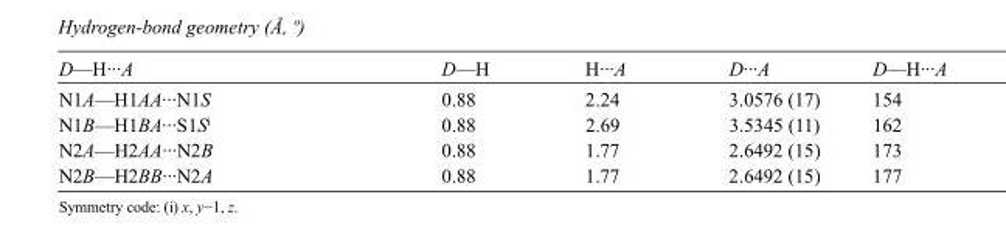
<table><tbody><tr><td>D—H···A</td><td>D—H</td><td>H···A</td><td>D···A</td><td>D—H···A</td></tr><tr><td>N1A—H1AA···N1S</td><td>0.88</td><td>2.24</td><td>3.0576 (17)</td><td>154</td></tr><tr><td>N1B—H1BA···S1S<sup>i</sup></td><td>0.88</td><td>2.69</td><td>3.5345 (11)</td><td>162</td></tr><tr><td>N2A—H2AA···N2B</td><td>0.88</td><td>1.77</td><td>2.6492 (15)</td><td>173</td></tr><tr><td>N2B—H2BB···N2A</td><td>0.88</td><td>1.77</td><td>2.6492 (15)</td><td>177</td></tr></tbody></table>